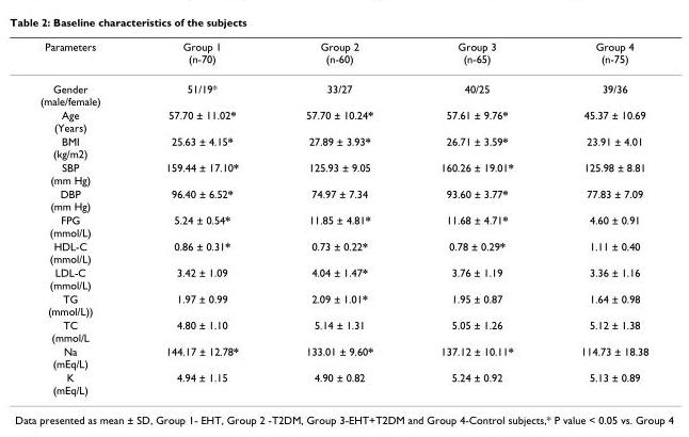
<table><thead><tr><td>Parameters</td><td>Group 1 (n-70)</td><td>Group 2 (n-60)</td><td>Group 3 (n-65)</td><td>Group 4 (n-75)</td></tr></thead><tbody><tr><td>Gender (male/female)</td><td>51/19*</td><td>33/27</td><td>40/25</td><td>39/36</td></tr><tr><td>Age (Years)</td><td>57.70 ± 11.02*</td><td>57.70 ± 10.24*</td><td>57.61 ± 9.76*</td><td>45.37 ± 10.69</td></tr><tr><td>BMI (kg/m2)</td><td>25.63 ± 4.15*</td><td>27.89 ± 3.93*</td><td>26.71 ± 3.59*</td><td>23.91 ± 4.01</td></tr><tr><td>SBP (mm Hg)</td><td>159.44 ± 17.10*</td><td>125.93 ± 9.05</td><td>160.26 ± 19.01*</td><td>125.98 ± 8.81</td></tr><tr><td>DBP (mm Hg)</td><td>96.40 ± 6.52*</td><td>74.97 ± 7.34</td><td>93.60 ± 3.77*</td><td>77.83 ± 7.09</td></tr><tr><td>FPG (mmol/L)</td><td>5.24 ± 0.54*</td><td>11.85 ± 4.81*</td><td>11.68 ± 4.71*</td><td>4.60 ± 0.91</td></tr><tr><td>HDL-C (mmol/L)</td><td>0.86 ± 0.31*</td><td>0.73 ± 0.22*</td><td>0.78 ± 0.29*</td><td>1.11 ± 0.40</td></tr><tr><td>LDL-C (mmol/L)</td><td>3.42 ± 1.09</td><td>4.04 ± 1.47*</td><td>3.76 ± 1.19</td><td>3.36 ± 1.16</td></tr><tr><td>TG (mmol/L))</td><td>1.97 ± 0.99</td><td>2.09 ± 1.01*</td><td>1.95 ± 0.87</td><td>1.64 ± 0.98</td></tr><tr><td>TC (mmol/L</td><td>4.80 ± 1.10</td><td>5.14 ± 1.31</td><td>5.05 ± 1.26</td><td>5.12 ± 1.38</td></tr><tr><td>Na (mEq/L)</td><td>144.17 ± 12.78*</td><td>133.01 ± 9.60*</td><td>137.12 ± 10.11*</td><td>114.73 ± 18.38</td></tr><tr><td>K (mEq/L)</td><td>4.94 ± 1.15</td><td>4.90 ± 0.82</td><td>5.24 ± 0.92</td><td>5.13 ± 0.89</td></tr></tbody></table>